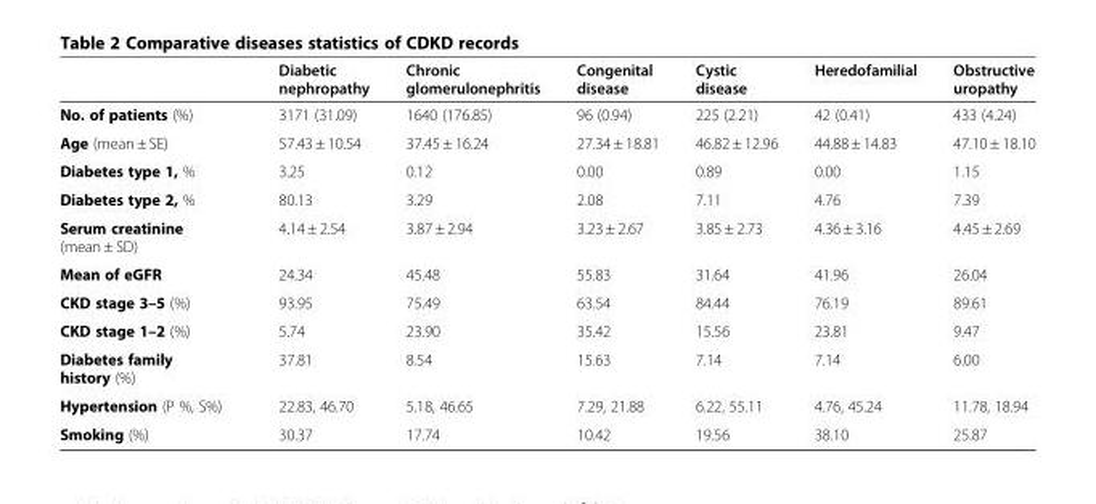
<table><thead><tr><td></td><td>Diabetic nephropathy</td><td>Chronic glomerulonephritis</td><td>Congenital disease</td><td>Cystic disease</td><td>Heredofamilial</td><td>Obstructive uropathy</td></tr></thead><tbody><tr><td>No. of patients (%)</td><td>3171 (31.09)</td><td>1640 (176.85)</td><td>96 (0.94)</td><td>225 (2.21)</td><td>42 (0.41)</td><td>433 (4.24)</td></tr><tr><td>Age (mean ± SE)</td><td>57.43 ± 10.54</td><td>37.45 ± 16.24</td><td>27.34 ± 18.81</td><td>46.82 ± 12.96</td><td>44.88 ± 14.83</td><td>47.10 ± 18.10</td></tr><tr><td>Diabetes type 1, %</td><td>3.25</td><td>0.12</td><td>0.00</td><td>0.89</td><td>0.00</td><td>1.15</td></tr><tr><td>Diabetes type 2, %</td><td>80.13</td><td>3.29</td><td>2.08</td><td>7.11</td><td>4.76</td><td>7.39</td></tr><tr><td>Serum creatinine (mean ± SD)</td><td>4.14 ± 2.54</td><td>3.87 ± 2.94</td><td>3.23 ± 2.67</td><td>3.85 ± 2.73</td><td>4.36 ± 3.16</td><td>4.45 ± 2.69</td></tr><tr><td>Mean of eGFR</td><td>24.34</td><td>45.48</td><td>55.83</td><td>31.64</td><td>41.96</td><td>26.04</td></tr><tr><td>CKD stage 3–5 (%)</td><td>93.95</td><td>75.49</td><td>63.54</td><td>84.44</td><td>76.19</td><td>89.61</td></tr><tr><td>CKD stage 1–2 (%)</td><td>5.74</td><td>23.90</td><td>35.42</td><td>15.56</td><td>23.81</td><td>9.47</td></tr><tr><td>Diabetes family history (%)</td><td>37.81</td><td>8.54</td><td>15.63</td><td>7.14</td><td>7.14</td><td>6.00</td></tr><tr><td>Hypertension (P %, S%)</td><td>22.83, 46.70</td><td>5.18, 46.65</td><td>7.29, 21.88</td><td>6.22, 55.11</td><td>4.76, 45.24</td><td>11.78, 18.94</td></tr><tr><td>Smoking (%)</td><td>30.37</td><td>17.74</td><td>10.42</td><td>19.56</td><td>38.10</td><td>25.87</td></tr></tbody></table>